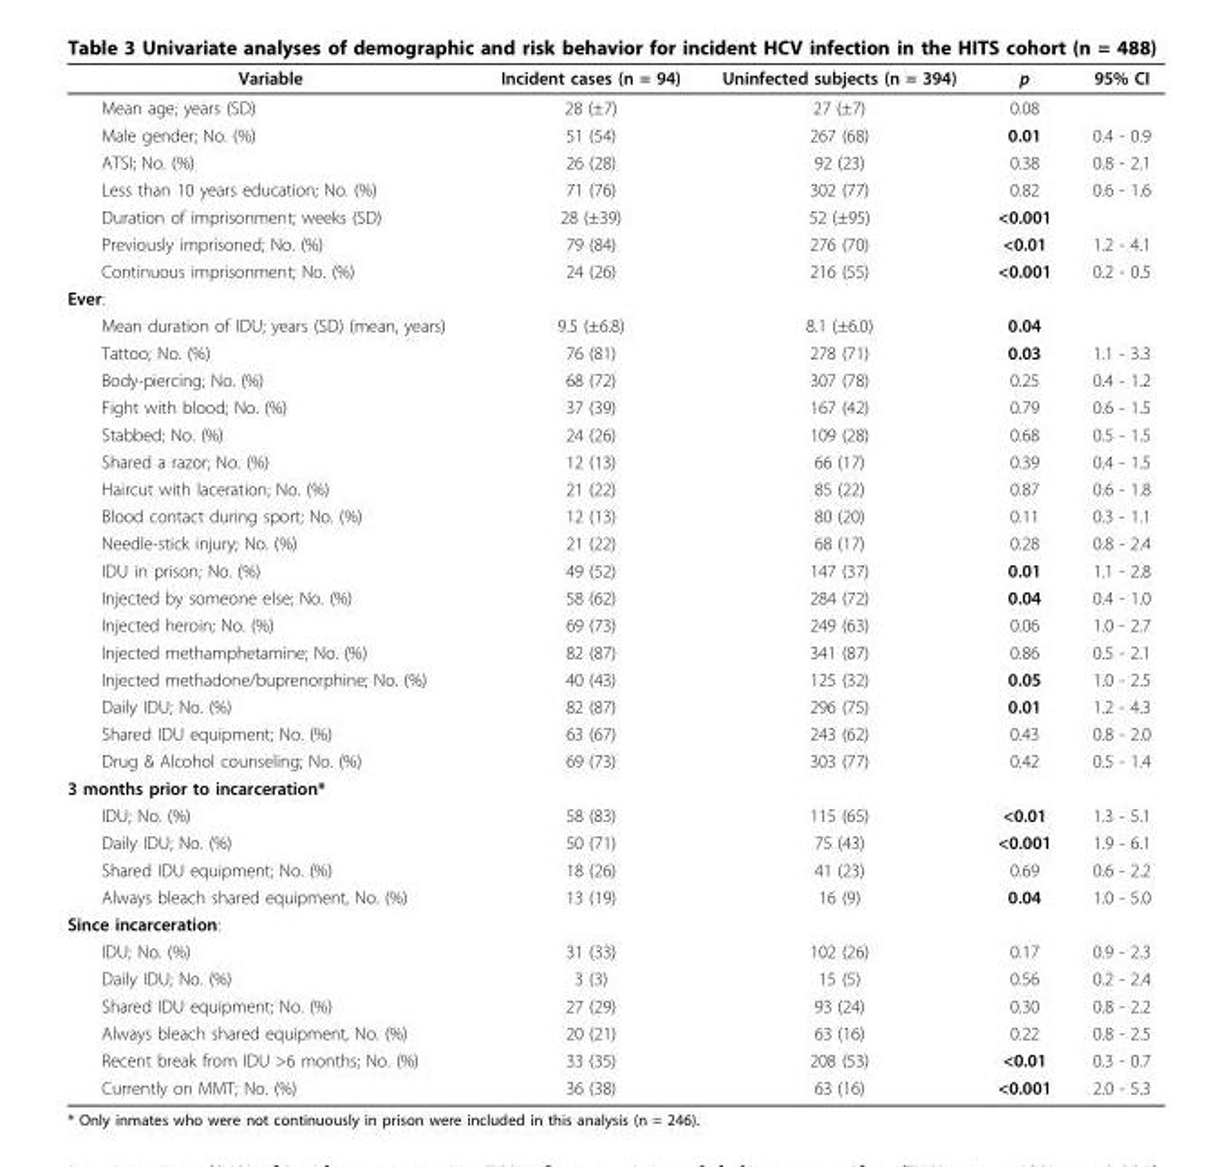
<table><thead><tr><td>Variable</td><td>Incident cases (n = 94)</td><td>Uninfected subjects (n = 394)</td><td>p</td><td>95% CI</td></tr></thead><tbody><tr><td>Mean age; years (SD)</td><td>28 (±7)</td><td>27 (±7)</td><td>0.08</td><td></td></tr><tr><td>Male gender; No. (%)</td><td>51 (54)</td><td>267 (68)</td><td>0.01</td><td>0.4 - 0.9</td></tr><tr><td>ATSI; No. (%)</td><td>26 (28)</td><td>92 (23)</td><td>0.38</td><td>0.8 - 2.1</td></tr><tr><td>Less than 10 years education; No. (%)</td><td>71 (76)</td><td>302 (77)</td><td>0.82</td><td>0.6 - 1.6</td></tr><tr><td>Duration of imprisonment; weeks (SD)</td><td>28 (±39)</td><td>52 (±95)</td><td>&lt;0.001</td><td></td></tr><tr><td>Previously imprisoned; No. (%)</td><td>79 (84)</td><td>276 (70)</td><td>&lt;0.01</td><td>1.2 - 4.1</td></tr><tr><td>Continuous imprisonment; No. (%)</td><td>24 (26)</td><td>216 (55)</td><td>&lt;0.001</td><td>0.2 - 0.5</td></tr><tr><td colspan="5">Ever:</td></tr><tr><td>Mean duration of IDU; years (SD) (mean, years)</td><td>9.5 (±6.8)</td><td>8.1 (±6.0)</td><td>0.04</td><td></td></tr><tr><td>Tattoo; No. (%)</td><td>76 (81)</td><td>278 (71)</td><td>0.03</td><td>1.1 - 3.3</td></tr><tr><td>Body-piercing; No. (%)</td><td>68 (72)</td><td>307 (78)</td><td>0.25</td><td>0.4 - 1.2</td></tr><tr><td>Fight with blood; No. (%)</td><td>37 (39)</td><td>167 (42)</td><td>0.79</td><td>0.6 - 1.5</td></tr><tr><td>Stabbed; No. (%)</td><td>24 (26)</td><td>109 (28)</td><td>0.68</td><td>0.5 - 1.5</td></tr><tr><td>Shared a razor; No. (%)</td><td>12 (13)</td><td>66 (17)</td><td>0.39</td><td>0.4 - 1.5</td></tr><tr><td>Haircut with laceration; No. (%)</td><td>21 (22)</td><td>85 (22)</td><td>0.87</td><td>0.6 - 1.8</td></tr><tr><td>Blood contact during sport; No. (%)</td><td>12 (13)</td><td>80 (20)</td><td>0.11</td><td>0.3 - 1.1</td></tr><tr><td>Needle-stick injury; No. (%)</td><td>21 (22)</td><td>68 (17)</td><td>0.28</td><td>0.8 - 2.4</td></tr><tr><td>IDU in prison; No. (%)</td><td>49 (52)</td><td>147 (37)</td><td>0.01</td><td>1.1 - 2.8</td></tr><tr><td>Injected by someone else; No. (%)</td><td>58 (62)</td><td>284 (72)</td><td>0.04</td><td>0.4 - 1.0</td></tr><tr><td>Injected heroin; No. (%)</td><td>69 (73)</td><td>249 (63)</td><td>0.06</td><td>1.0 - 2.7</td></tr><tr><td>Injected methamphetamine; No. (%)</td><td>82 (87)</td><td>341 (87)</td><td>0.86</td><td>0.5 - 2.1</td></tr><tr><td>Injected methadone/buprenorphine; No. (%)</td><td>40 (43)</td><td>125 (32)</td><td>0.05</td><td>1.0 - 2.5</td></tr><tr><td>Daily IDU; No. (%)</td><td>82 (87)</td><td>296 (75)</td><td>0.01</td><td>1.2 - 4.3</td></tr><tr><td>Shared IDU equipment; No. (%)</td><td>63 (67)</td><td>243 (62)</td><td>0.43</td><td>0.8 - 2.0</td></tr><tr><td>Drug &amp; Alcohol counseling; No. (%)</td><td>69 (73)</td><td>303 (77)</td><td>0.42</td><td>0.5 - 1.4</td></tr><tr><td colspan="5">3 months prior to incarceration*</td></tr><tr><td>IDU; No. (%)</td><td>58 (83)</td><td>115 (65)</td><td>&lt;0.01</td><td>1.3 - 5.1</td></tr><tr><td>Daily IDU; No. (%)</td><td>50 (71)</td><td>75 (43)</td><td>&lt;0.001</td><td>1.9 - 6.1</td></tr><tr><td>Shared IDU equipment; No. (%)</td><td>18 (26)</td><td>41 (23)</td><td>0.69</td><td>0.6 - 2.2</td></tr><tr><td>Always bleach shared equipment, No. (%)</td><td>13 (19)</td><td>16 (9)</td><td>0.04</td><td>1.0 - 5.0</td></tr><tr><td colspan="5">Since incarceration:</td></tr><tr><td>IDU; No. (%)</td><td>31 (33)</td><td>102 (26)</td><td>0.17</td><td>0.9 - 2.3</td></tr><tr><td>Daily IDU; No. (%)</td><td>3 (3)</td><td>15 (5)</td><td>0.56</td><td>0.2 - 2.4</td></tr><tr><td>Shared IDU equipment; No. (%)</td><td>27 (29)</td><td>93 (24)</td><td>0.30</td><td>0.8 - 2.2</td></tr><tr><td>Always bleach shared equipment, No. (%)</td><td>20 (21)</td><td>63 (16)</td><td>0.22</td><td>0.8 - 2.5</td></tr><tr><td>Recent break from IDU &gt;6 months; No. (%)</td><td>33 (35)</td><td>208 (53)</td><td>&lt;0.01</td><td>0.3 - 0.7</td></tr><tr><td>Currently on MMT; No. (%)</td><td>36 (38)</td><td>63 (16)</td><td>&lt;0.001</td><td>2.0 - 5.3</td></tr></tbody></table>